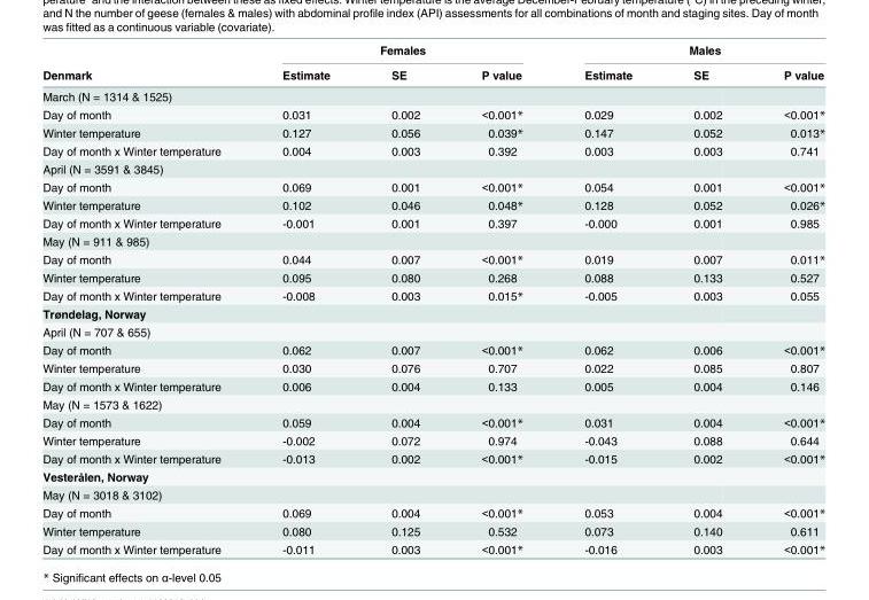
<table><thead><tr><td rowspan="2">Denmark</td><td colspan="3">Females</td><td colspan="3">Males</td></tr><tr><td>Estimate</td><td>SE</td><td>P value</td><td>Estimate</td><td>SE</td><td>P value</td></tr></thead><tbody><tr><td colspan="7">March (N = 1314 &amp; 1525)</td></tr><tr><td>Day of month</td><td>0.031</td><td>0.002</td><td>&lt;0.001*</td><td>0.029</td><td>0.002</td><td>&lt;0.001*</td></tr><tr><td>Winter temperature</td><td>0.127</td><td>0.056</td><td>0.039*</td><td>0.147</td><td>0.052</td><td>0.013*</td></tr><tr><td>Day of month x Winter temperature</td><td>0.004</td><td>0.003</td><td>0.392</td><td>0.003</td><td>0.003</td><td>0.741</td></tr><tr><td colspan="7">April (N = 3591 &amp; 3845)</td></tr><tr><td>Day of month</td><td>0.069</td><td>0.001</td><td>&lt;0.001*</td><td>0.054</td><td>0.001</td><td>&lt;0.001*</td></tr><tr><td>Winter temperature</td><td>0.102</td><td>0.046</td><td>0.048*</td><td>0.128</td><td>0.052</td><td>0.026*</td></tr><tr><td>Day of month x Winter temperature</td><td>-0.001</td><td>0.001</td><td>0.397</td><td>-0.000</td><td>0.001</td><td>0.985</td></tr><tr><td colspan="7">May (N = 911 &amp; 985)</td></tr><tr><td>Day of month</td><td>0.044</td><td>0.007</td><td>&lt;0.001*</td><td>0.019</td><td>0.007</td><td>0.011*</td></tr><tr><td>Winter temperature</td><td>0.095</td><td>0.080</td><td>0.268</td><td>0.088</td><td>0.133</td><td>0.527</td></tr><tr><td>Day of month x Winter temperature</td><td>-0.008</td><td>0.003</td><td>0.015*</td><td>-0.005</td><td>0.003</td><td>0.055</td></tr><tr><td colspan="7">Trøndelag, Norway</td></tr><tr><td colspan="7">April (N = 707 &amp; 655)</td></tr><tr><td>Day of month</td><td>0.062</td><td>0.007</td><td>&lt;0.001*</td><td>0.062</td><td>0.006</td><td>&lt;0.001*</td></tr><tr><td>Winter temperature</td><td>0.030</td><td>0.076</td><td>0.707</td><td>0.022</td><td>0.085</td><td>0.807</td></tr><tr><td>Day of month x Winter temperature</td><td>0.006</td><td>0.004</td><td>0.133</td><td>0.005</td><td>0.004</td><td>0.146</td></tr><tr><td colspan="7">May (N = 1573 &amp; 1622)</td></tr><tr><td>Day of month</td><td>0.059</td><td>0.004</td><td>&lt;0.001*</td><td>0.031</td><td>0.004</td><td>&lt;0.001*</td></tr><tr><td>Winter temperature</td><td>-0.002</td><td>0.072</td><td>0.974</td><td>-0.043</td><td>0.088</td><td>0.644</td></tr><tr><td>Day of month x Winter temperature</td><td>-0.013</td><td>0.002</td><td>&lt;0.001*</td><td>-0.015</td><td>0.002</td><td>&lt;0.001*</td></tr><tr><td colspan="7">Vesterålen, Norway</td></tr><tr><td colspan="7">May (N = 3018 &amp; 3102)</td></tr><tr><td>Day of month</td><td>0.069</td><td>0.004</td><td>&lt;0.001*</td><td>0.053</td><td>0.004</td><td>&lt;0.001*</td></tr><tr><td>Winter temperature</td><td>0.080</td><td>0.125</td><td>0.532</td><td>0.073</td><td>0.140</td><td>0.611</td></tr><tr><td>Day of month x Winter temperature</td><td>-0.011</td><td>0.003</td><td>&lt;0.001*</td><td>-0.016</td><td>0.003</td><td>&lt;0.001*</td></tr></tbody></table>